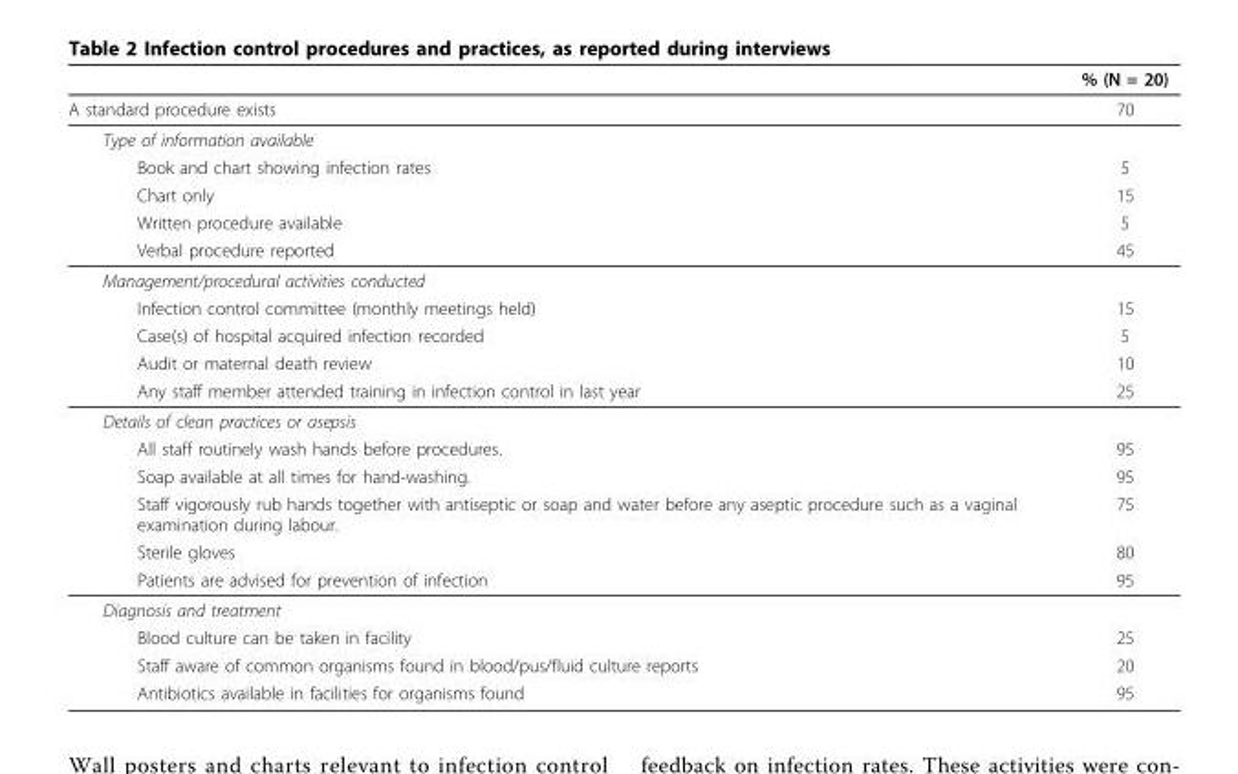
<table><thead><tr><td></td><td>% (N = 20)</td></tr></thead><tbody><tr><td>A standard procedure exists</td><td>70</td></tr><tr><td colspan="2">Type of information available</td></tr><tr><td>Book and chart showing infection rates</td><td>5</td></tr><tr><td>Chart only</td><td>15</td></tr><tr><td>Written procedure available</td><td>5</td></tr><tr><td>Verbal procedure reported</td><td>45</td></tr><tr><td colspan="2">Management/procedural activities conducted</td></tr><tr><td>Infection control committee (monthly meetings held)</td><td>15</td></tr><tr><td>Case(s) of hospital acquired infection recorded</td><td>5</td></tr><tr><td>Audit or maternal death review</td><td>10</td></tr><tr><td>Any staff member attended training in infection control in last year</td><td>25</td></tr><tr><td colspan="2">Details of clean practices or asepsis</td></tr><tr><td>All staff routinely wash hands before procedures.</td><td>95</td></tr><tr><td>Soap available at all times for hand-washing.</td><td>95</td></tr><tr><td>Staff vigorously rub hands together with antiseptic or soap and water before any aseptic procedure such as a vaginal examination during labour.</td><td>75</td></tr><tr><td>Sterile gloves</td><td>80</td></tr><tr><td>Patients are advised for prevention of infection</td><td>95</td></tr><tr><td colspan="2">Diagnosis and treatment</td></tr><tr><td>Blood culture can be taken in facility</td><td>25</td></tr><tr><td>Staff aware of common organisms found in blood/pus/fluid culture reports</td><td>20</td></tr><tr><td>Antibiotics available in facilities for organisms found</td><td>95</td></tr></tbody></table>